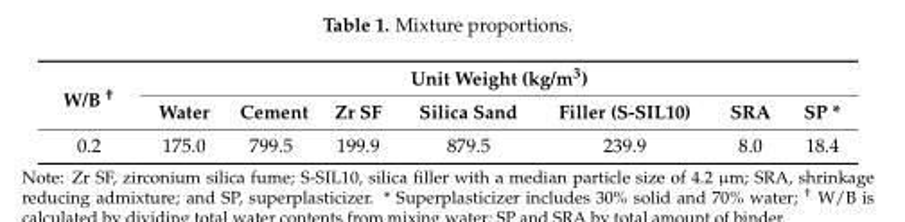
<table><thead><tr><td rowspan="2">W/B <sup>†</sup></td><td colspan="7">Unit Weight (kg/m<sup>3</sup>)</td></tr><tr><td>Water</td><td>Cement</td><td>Zr SF</td><td>Silica Sand</td><td>Filler (S-SIL10)</td><td>SRA</td><td>SP *</td></tr></thead><tbody><tr><td>0.2</td><td>175.0</td><td>799.5</td><td>199.9</td><td>879.5</td><td>239.9</td><td>8.0</td><td>18.4</td></tr></tbody></table>